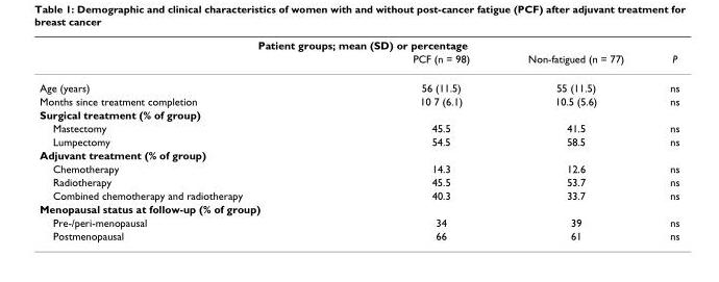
<table><thead><tr><td colspan="4">Patient groups; mean (SD) or percentage</td></tr><tr><td></td><td>PCF (n = 98)</td><td>Non-fatigued (n = 77)</td><td>P</td></tr></thead><tbody><tr><td>Age (years)</td><td>56 (11.5)</td><td>55 (11.5)</td><td>ns</td></tr><tr><td>Months since treatment completion</td><td>10 7 (6.1)</td><td>10.5 (5.6)</td><td>ns</td></tr><tr><td colspan="4">Surgical treatment (% of group)</td></tr><tr><td>Mastectomy</td><td>45.5</td><td>41.5</td><td>ns</td></tr><tr><td>Lumpectomy</td><td>54.5</td><td>58.5</td><td>ns</td></tr><tr><td colspan="4">Adjuvant treatment (% of group)</td></tr><tr><td>Chemotherapy</td><td>14.3</td><td>12.6</td><td>ns</td></tr><tr><td>Radiotherapy</td><td>45.5</td><td>53.7</td><td>ns</td></tr><tr><td>Combined chemotherapy and radiotherapy</td><td>40.3</td><td>33.7</td><td>ns</td></tr><tr><td colspan="4">Menopausal status at follow-up (% of group)</td></tr><tr><td>Pre-/peri-menopausal</td><td>34</td><td>39</td><td>ns</td></tr><tr><td>Postmenopausal</td><td>66</td><td>61</td><td>ns</td></tr></tbody></table>